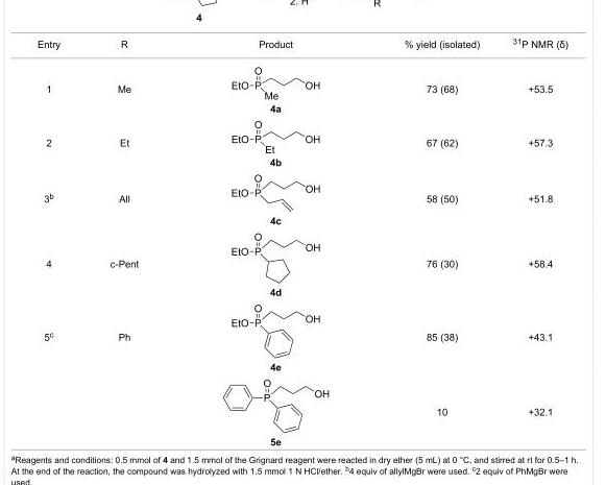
<table><tbody><tr><td>Entry</td><td>R</td><td>Product</td><td>% yield (isolated)</td><td><sup>31</sup>P NMR (δ)</td></tr><tr><td>1</td><td>Me</td><td>4a</td><td>73 (68)</td><td>+53.5</td></tr><tr><td>2</td><td>Et</td><td>4b</td><td>67 (62)</td><td>+57.3</td></tr><tr><td>3<sup>b</sup></td><td>All</td><td>4c</td><td>58 (50)</td><td>+51.8</td></tr><tr><td>4</td><td>c-Pent</td><td>4d</td><td>76 (30)</td><td>+58.4</td></tr><tr><td rowspan="2">5<sup>c</sup></td><td>Ph</td><td>4e</td><td>85 (38)</td><td>+43.1</td></tr><tr><td></td><td>5e</td><td>10</td><td>+32.1</td></tr></tbody></table>